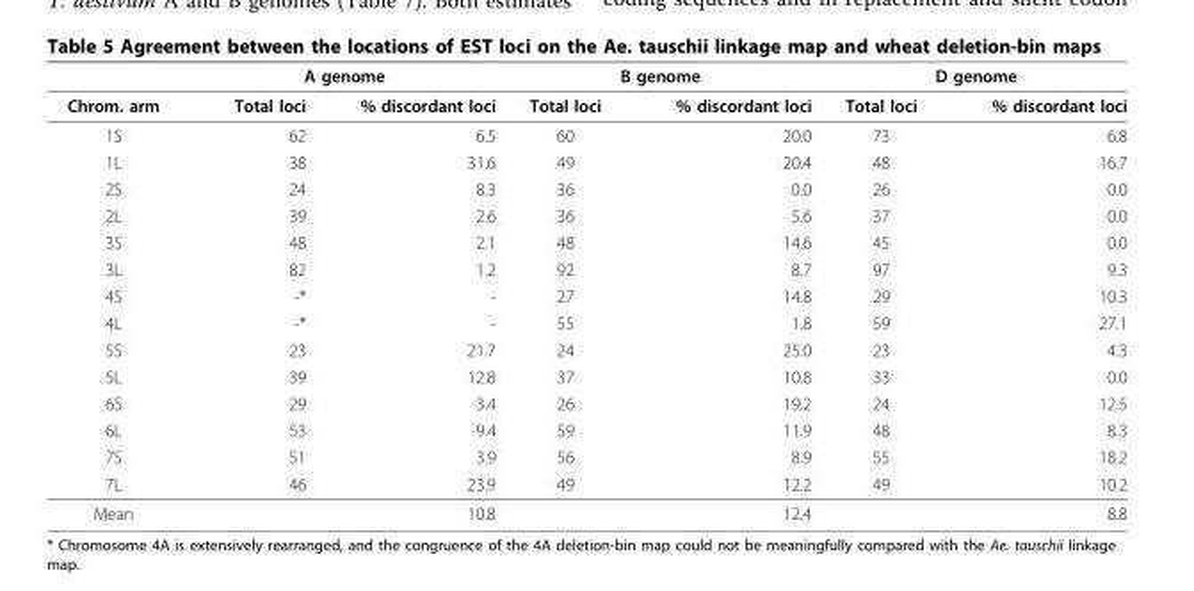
<table><thead><tr><td rowspan="2">Chrom. arm</td><td colspan="2">A genome</td><td colspan="2">B genome</td><td colspan="2">D genome</td></tr><tr><td>Total loci</td><td>% discordant loci</td><td>Total loci</td><td>% discordant loci</td><td>Total loci</td><td>% discordant loci</td></tr></thead><tbody><tr><td>1S</td><td>62</td><td>6.5</td><td>60</td><td>20.0</td><td>73</td><td>6.8</td></tr><tr><td>1L</td><td>38</td><td>31.6</td><td>49</td><td>20.4</td><td>48</td><td>16.7</td></tr><tr><td>2S</td><td>24</td><td>8.3</td><td>36</td><td>0.0</td><td>26</td><td>0.0</td></tr><tr><td>2L</td><td>39</td><td>2.6</td><td>36</td><td>5.6</td><td>37</td><td>0.0</td></tr><tr><td>3S</td><td>48</td><td>2.1</td><td>48</td><td>14.6</td><td>45</td><td>0.0</td></tr><tr><td>3L</td><td>82</td><td>1.2</td><td>92</td><td>8.7</td><td>97</td><td>9.3</td></tr><tr><td>4S</td><td>-*</td><td>-</td><td>27</td><td>14.8</td><td>29</td><td>10.3</td></tr><tr><td>4L</td><td>-*</td><td>-</td><td>55</td><td>1.8</td><td>59</td><td>27.1</td></tr><tr><td>5S</td><td>23</td><td>21.7</td><td>24</td><td>25.0</td><td>23</td><td>4.3</td></tr><tr><td>5L</td><td>39</td><td>12.8</td><td>37</td><td>10.8</td><td>33</td><td>0.0</td></tr><tr><td>6S</td><td>29</td><td>3.4</td><td>26</td><td>19.2</td><td>24</td><td>12.5</td></tr><tr><td>6L</td><td>53</td><td>9.4</td><td>59</td><td>11.9</td><td>48</td><td>8.3</td></tr><tr><td>7S</td><td>51</td><td>3.9</td><td>56</td><td>8.9</td><td>55</td><td>18.2</td></tr><tr><td>7L</td><td>46</td><td>23.9</td><td>49</td><td>12.2</td><td>49</td><td>10.2</td></tr><tr><td>Mean</td><td></td><td>10.8</td><td></td><td>12.4</td><td></td><td>8.8</td></tr></tbody></table>